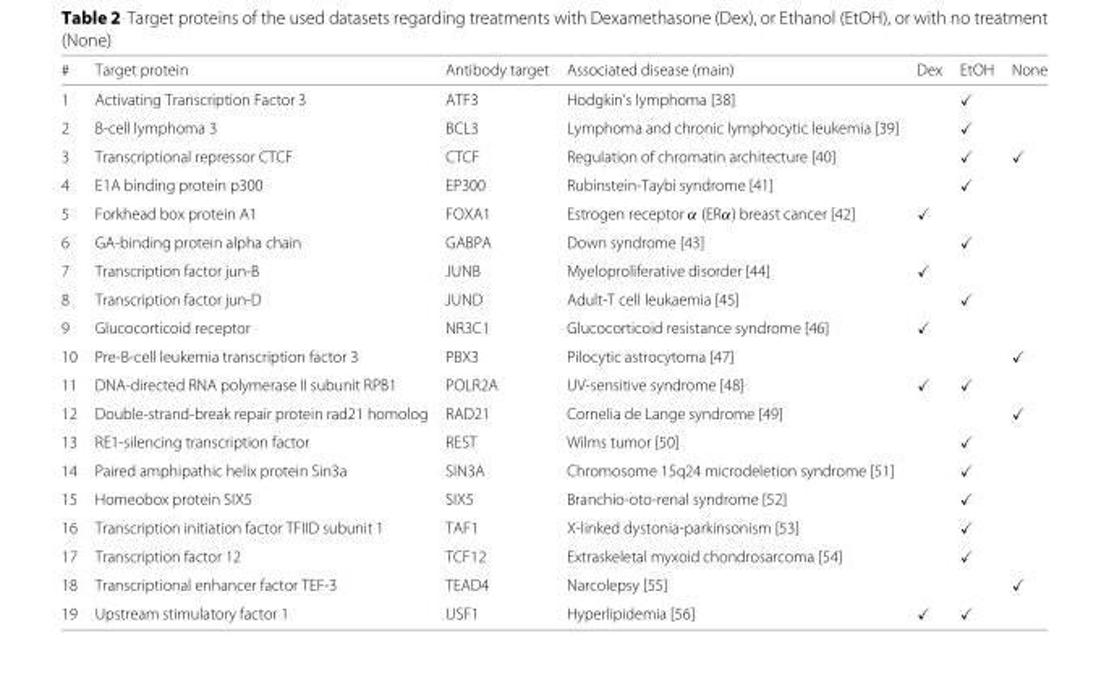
<table><thead><tr><td>#</td><td>Target protein</td><td>Antibody target</td><td>Associated disease (main)</td><td>Dex</td><td>EtOH</td><td>None</td></tr></thead><tbody><tr><td>1</td><td>Activating Transcription Factor 3</td><td>ATF3</td><td>Hodgkin’s lymphoma [38]</td><td></td><td>✓</td><td></td></tr><tr><td>2</td><td>B-cell lymphoma 3</td><td>BCL3</td><td>Lymphoma and chronic lymphocytic leukemia [39]</td><td></td><td>✓</td><td></td></tr><tr><td>3</td><td>Transcriptional repressor CTCF</td><td>CTCF</td><td>Regulation of chromatin architecture [40]</td><td></td><td>✓</td><td>✓</td></tr><tr><td>4</td><td>E1A binding protein p300</td><td>EP300</td><td>Rubinstein-Taybi syndrome [41]</td><td></td><td>✓</td><td></td></tr><tr><td>5</td><td>Forkhead box protein A1</td><td>FOXA1</td><td>Estrogen receptor α (ERα) breast cancer [42]</td><td>✓</td><td></td><td></td></tr><tr><td>6</td><td>GA-binding protein alpha chain</td><td>GABPA</td><td>Down syndrome [43]</td><td></td><td>✓</td><td></td></tr><tr><td>7</td><td>Transcription factor jun-B</td><td>JUNB</td><td>Myeloproliferative disorder [44]</td><td>✓</td><td></td><td></td></tr><tr><td>8</td><td>Transcription factor jun-D</td><td>JUND</td><td>Adult-T cell leukaemia [45]</td><td></td><td>✓</td><td></td></tr><tr><td>9</td><td>Glucocorticoid receptor</td><td>NR3C1</td><td>Glucocorticoid resistance syndrome [46]</td><td>✓</td><td></td><td></td></tr><tr><td>10</td><td>Pre-B-cell leukemia transcription factor 3</td><td>PBX3</td><td>Pilocytic astrocytoma [47]</td><td></td><td></td><td>✓</td></tr><tr><td>11</td><td>DNA-directed RNA polymerase II subunit RPB1</td><td>POLR2A</td><td>UV-sensitive syndrome [48]</td><td>✓</td><td>✓</td><td></td></tr><tr><td>12</td><td>Double-strand-break repair protein rad21 homolog</td><td>RAD21</td><td>Cornelia de Lange syndrome [49]</td><td></td><td></td><td>✓</td></tr><tr><td>13</td><td>RE1-silencing transcription factor</td><td>REST</td><td>Wilms tumor [50]</td><td></td><td>✓</td><td></td></tr><tr><td>14</td><td>Paired amphipathic helix protein Sin3a</td><td>SIN3A</td><td>Chromosome 15q24 microdeletion syndrome [51]</td><td></td><td>✓</td><td></td></tr><tr><td>15</td><td>Homeobox protein SIX5</td><td>SIX5</td><td>Branchio-oto-renal syndrome [52]</td><td></td><td>✓</td><td></td></tr><tr><td>16</td><td>Transcription initiation factor TFIID subunit 1</td><td>TAF1</td><td>X-linked dystonia-parkinsonism [53]</td><td></td><td>✓</td><td></td></tr><tr><td>17</td><td>Transcription factor 12</td><td>TCF12</td><td>Extraskeletal myxoid chondrosarcoma [54]</td><td></td><td>✓</td><td></td></tr><tr><td>18</td><td>Transcriptional enhancer factor TEF-3</td><td>TEAD4</td><td>Narcolepsy [55]</td><td></td><td></td><td>✓</td></tr><tr><td>19</td><td>Upstream stimulatory factor 1</td><td>USF1</td><td>Hyperlipidemia [56]</td><td>✓</td><td>✓</td><td></td></tr></tbody></table>